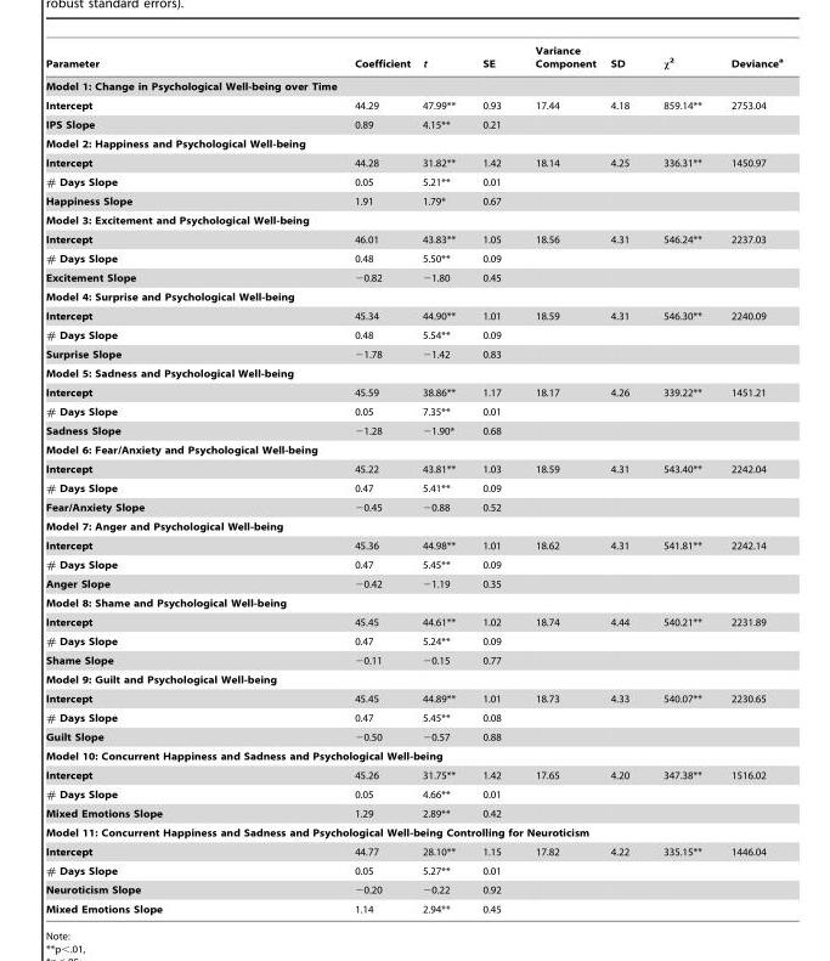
<table><thead><tr><td>Parameter</td><td>Coefficient</td><td>t</td><td>SE</td><td>Variance Component</td><td>SD</td><td>χ<sup>2</sup></td><td>Deviance<sup>a</sup></td></tr></thead><tbody><tr><td colspan="8">Model 1: Change in Psychological Well-being over Time</td></tr><tr><td>Intercept</td><td>44.29</td><td>47.99**</td><td>0.93</td><td>17.44</td><td>4.18</td><td>859.14**</td><td>2753.04</td></tr><tr><td>IPS Slope</td><td>0.89</td><td>4.15**</td><td>0.21</td><td></td><td></td><td></td><td></td></tr><tr><td colspan="8">Model 2: Happiness and Psychological Well-being</td></tr><tr><td>Intercept</td><td>44.28</td><td>31.82**</td><td>1.42</td><td>18.14</td><td>4.25</td><td>336.31**</td><td>1450.97</td></tr><tr><td># Days Slope</td><td>0.05</td><td>5.21**</td><td>0.01</td><td></td><td></td><td></td><td></td></tr><tr><td>Happiness Slope</td><td>1.91</td><td>1.79*</td><td>0.67</td><td></td><td></td><td></td><td></td></tr><tr><td colspan="8">Model 3: Excitement and Psychological Well-being</td></tr><tr><td>Intercept</td><td>46.01</td><td>43.83**</td><td>1.05</td><td>18.56</td><td>4.31</td><td>546.24**</td><td>2237.03</td></tr><tr><td># Days Slope</td><td>0.48</td><td>5.50**</td><td>0.09</td><td></td><td></td><td></td><td></td></tr><tr><td>Excitement Slope</td><td>−0.82</td><td>−1.80</td><td>0.45</td><td></td><td></td><td></td><td></td></tr><tr><td colspan="8">Model 4: Surprise and Psychological Well-being</td></tr><tr><td>Intercept</td><td>45.34</td><td>44.90**</td><td>1.01</td><td>18.59</td><td>4.31</td><td>546.30**</td><td>2240.09</td></tr><tr><td># Days Slope</td><td>0.48</td><td>5.54**</td><td>0.09</td><td></td><td></td><td></td><td></td></tr><tr><td>Surprise Slope</td><td>−1.78</td><td>−1.42</td><td>0.83</td><td></td><td></td><td></td><td></td></tr><tr><td colspan="8">Model 5: Sadness and Psychological Well-being</td></tr><tr><td>Intercept</td><td>45.59</td><td>38.86**</td><td>1.17</td><td>18.17</td><td>4.26</td><td>339.22**</td><td>1451.21</td></tr><tr><td># Days Slope</td><td>0.05</td><td>7.35**</td><td>0.01</td><td></td><td></td><td></td><td></td></tr><tr><td>Sadness Slope</td><td>−1.28</td><td>−1.90*</td><td>0.68</td><td></td><td></td><td></td><td></td></tr><tr><td colspan="8">Model 6: Fear/Anxiety and Psychological Well-being</td></tr><tr><td>Intercept</td><td>45.22</td><td>43.81**</td><td>1.03</td><td>18.59</td><td>4.31</td><td>543.40**</td><td>2242.04</td></tr><tr><td># Days Slope</td><td>0.47</td><td>5.41**</td><td>0.09</td><td></td><td></td><td></td><td></td></tr><tr><td>Fear/Anxiety Slope</td><td>−0.45</td><td>−0.88</td><td>0.52</td><td></td><td></td><td></td><td></td></tr><tr><td colspan="8">Model 7: Anger and Psychological Well-being</td></tr><tr><td>Intercept</td><td>45.36</td><td>44.98**</td><td>1.01</td><td>18.62</td><td>4.31</td><td>541.81**</td><td>2242.14</td></tr><tr><td># Days Slope</td><td>0.47</td><td>5.45**</td><td>0.09</td><td></td><td></td><td></td><td></td></tr><tr><td>Anger Slope</td><td>−0.42</td><td>−1.19</td><td>0.35</td><td></td><td></td><td></td><td></td></tr><tr><td colspan="8">Model 8: Shame and Psychological Well-being</td></tr><tr><td>Intercept</td><td>45.45</td><td>44.61**</td><td>1.02</td><td>18.74</td><td>4.44</td><td>540.21**</td><td>2231.89</td></tr><tr><td># Days Slope</td><td>0.47</td><td>5.24**</td><td>0.09</td><td></td><td></td><td></td><td></td></tr><tr><td>Shame Slope</td><td>−0.11</td><td>−0.15</td><td>0.77</td><td></td><td></td><td></td><td></td></tr><tr><td colspan="8">Model 9: Guilt and Psychological Well-being</td></tr><tr><td>Intercept</td><td>45.45</td><td>44.89**</td><td>1.01</td><td>18.73</td><td>4.33</td><td>540.07**</td><td>2230.65</td></tr><tr><td># Days Slope</td><td>0.47</td><td>5.45**</td><td>0.08</td><td></td><td></td><td></td><td></td></tr><tr><td>Guilt Slope</td><td>−0.50</td><td>−0.57</td><td>0.88</td><td></td><td></td><td></td><td></td></tr><tr><td colspan="8">Model 10: Concurrent Happiness and Sadness and Psychological Well-being</td></tr><tr><td>Intercept</td><td>45.26</td><td>31.75**</td><td>1.42</td><td>17.65</td><td>4.20</td><td>347.38**</td><td>1516.02</td></tr><tr><td># Days Slope</td><td>0.05</td><td>4.66**</td><td>0.01</td><td></td><td></td><td></td><td></td></tr><tr><td>Mixed Emotions Slope</td><td>1.29</td><td>2.89**</td><td>0.42</td><td></td><td></td><td></td><td></td></tr><tr><td colspan="8">Model 11: Concurrent Happiness and Sadness and Psychological Well-being Controlling for Neuroticism</td></tr><tr><td>Intercept</td><td>44.77</td><td>28.10**</td><td>1.15</td><td>17.82</td><td>4.22</td><td>335.15**</td><td>1446.04</td></tr><tr><td># Days Slope</td><td>0.05</td><td>5.27**</td><td>0.01</td><td></td><td></td><td></td><td></td></tr><tr><td>Neuroticism Slope</td><td>−0.20</td><td>−0.22</td><td>0.92</td><td></td><td></td><td></td><td></td></tr><tr><td>Mixed Emotions Slope</td><td>1.14</td><td>2.94**</td><td>0.45</td><td></td><td></td><td></td><td></td></tr></tbody></table>